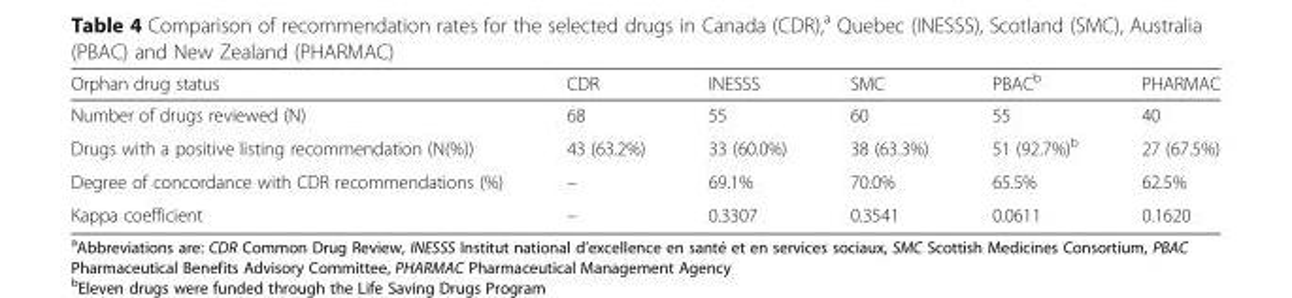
<table><thead><tr><td>Orphan drug status</td><td>CDR</td><td>INESSS</td><td>SMC</td><td>PBAC<sup>b</sup></td><td>PHARMAC</td></tr></thead><tbody><tr><td>Number of drugs reviewed (N)</td><td>68</td><td>55</td><td>60</td><td>55</td><td>40</td></tr><tr><td>Drugs with a positive listing recommendation (N(%))</td><td>43 (63.2%)</td><td>33 (60.0%)</td><td>38 (63.3%)</td><td>51 (92.7%)<sup>b</sup></td><td>27 (67.5%)</td></tr><tr><td>Degree of concordance with CDR recommendations (%)</td><td>–</td><td>69.1%</td><td>70.0%</td><td>65.5%</td><td>62.5%</td></tr><tr><td>Kappa coefficient</td><td>–</td><td>0.3307</td><td>0.3541</td><td>0.0611</td><td>0.1620</td></tr></tbody></table>